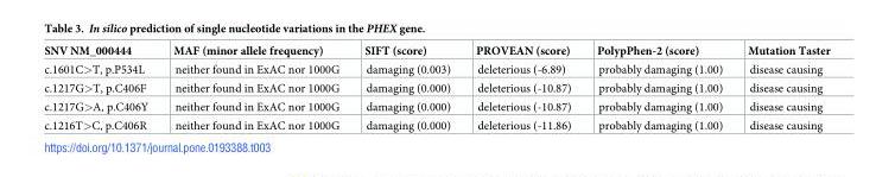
<table><thead><tr><td>SNV NM_000444</td><td>MAF (minor allele frequency)</td><td>SIFT (score)</td><td>PROVEAN (score)</td><td>PolypPhen-2 (score)</td><td>Mutation Taster</td></tr></thead><tbody><tr><td>c.1601C&gt;T, p.P534L</td><td>neither found in ExAC nor 1000G</td><td>damaging (0.003)</td><td>deleterious (-6.89)</td><td>probably damaging (1.00)</td><td>disease causing</td></tr><tr><td>c.1217G&gt;T, p.C406F</td><td>neither found in ExAC nor 1000G</td><td>damaging (0.000)</td><td>deleterious (-10.87)</td><td>probably damaging (1.00)</td><td>disease causing</td></tr><tr><td>c.1217G&gt;A, p.C406Y</td><td>neither found in ExAC nor 1000G</td><td>damaging (0.000)</td><td>deleterious (-10.87)</td><td>probably damaging (1.00)</td><td>disease causing</td></tr><tr><td>c.1216T&gt;C, p.C406R</td><td>neither found in ExAC nor 1000G</td><td>damaging (0.000)</td><td>deleterious (-11.86)</td><td>probably damaging (1.00)</td><td>disease causing</td></tr></tbody></table>